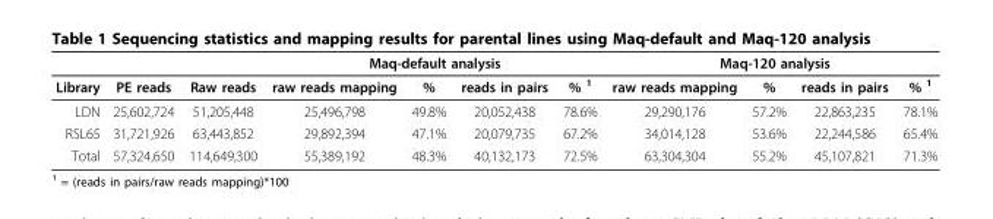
<table><thead><tr><td rowspan="2">Library</td><td rowspan="2">PE reads</td><td rowspan="2">Raw reads</td><td colspan="4">Maq-default analysis</td><td colspan="4">Maq-120 analysis</td></tr><tr><td>raw reads mapping</td><td>%</td><td>reads in pairs</td><td>% <sup>1</sup></td><td>raw reads mapping</td><td>%</td><td>reads in pairs</td><td>% <sup>1</sup></td></tr></thead><tbody><tr><td>LDN</td><td>25,602,724</td><td>51,205,448</td><td>25,496,798</td><td>49.8%</td><td>20,052,438</td><td>78.6%</td><td>29,290,176</td><td>57.2%</td><td>22,863,235</td><td>78.1%</td></tr><tr><td>RSL65</td><td>31,721,926</td><td>63,443,852</td><td>29,892,394</td><td>47.1%</td><td>20,079,735</td><td>67.2%</td><td>34,014,128</td><td>53.6%</td><td>22,244,586</td><td>65.4%</td></tr><tr><td>Total</td><td>57,324,650</td><td>114,649,300</td><td>55,389,192</td><td>48.3%</td><td>40,132,173</td><td>72.5%</td><td>63,304,304</td><td>55.2%</td><td>45,107,821</td><td>71.3%</td></tr></tbody></table>